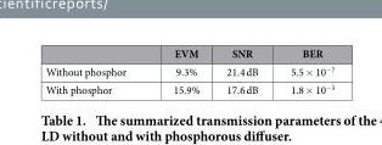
<table><thead><tr><td></td><td>EVM</td><td>SNR</td><td>BER</td></tr></thead><tbody><tr><td>Without phosphor</td><td>9.3%</td><td>21.4 dB</td><td>5.5 × 10<sup>−7</sup></td></tr><tr><td>With phosphor</td><td>15.9%</td><td>17.6 dB</td><td>1.8 × 10<sup>−3</sup></td></tr></tbody></table>